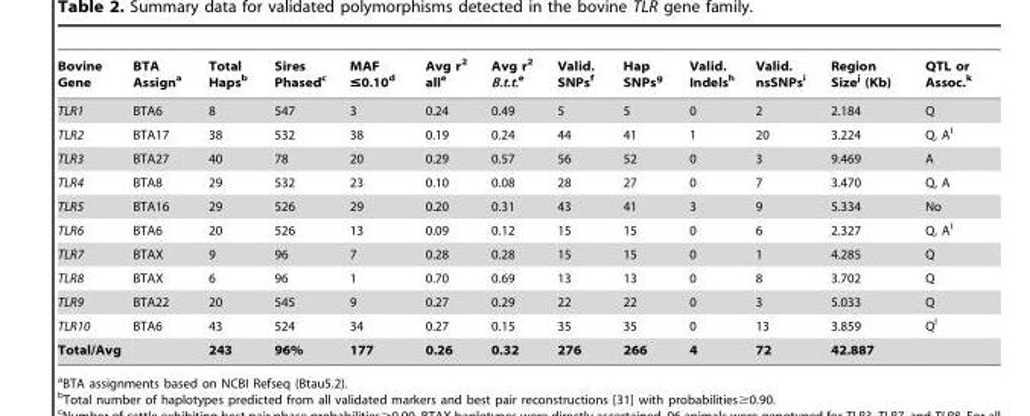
<table><thead><tr><td>Bovine Gene</td><td>BTA Assign<sup>a</sup></td><td>Total Haps<sup>b</sup></td><td>Sires Phased<sup>c</sup></td><td>MAF ≤0.10<sup>d</sup></td><td>Avg r<sup>2</sup> all<sup>e</sup></td><td>Avg r<sup>2</sup> B.t.t.e</td><td>Valid. SNPs<sup>f</sup></td><td>Hap SNPs<sup>g</sup></td><td>Valid. Indels<sup>h</sup></td><td>Valid. nsSNPs<sup>i</sup></td><td>Region Size<sup>j</sup> (Kb)</td><td>QTL or Assoc.<sup>k</sup></td></tr></thead><tbody><tr><td>TLR1</td><td>BTA6</td><td>8</td><td>547</td><td>3</td><td>0.24</td><td>0.49</td><td>5</td><td>5</td><td>0</td><td>2</td><td>2.184</td><td>Q</td></tr><tr><td>TLR2</td><td>BTA17</td><td>38</td><td>532</td><td>38</td><td>0.19</td><td>0.24</td><td>44</td><td>41</td><td>1</td><td>20</td><td>3.224</td><td>Q, A<sup>l</sup></td></tr><tr><td>TLR3</td><td>BTA27</td><td>40</td><td>78</td><td>20</td><td>0.29</td><td>0.57</td><td>56</td><td>52</td><td>0</td><td>3</td><td>9.469</td><td>A</td></tr><tr><td>TLR4</td><td>BTA8</td><td>29</td><td>532</td><td>23</td><td>0.10</td><td>0.08</td><td>28</td><td>27</td><td>0</td><td>7</td><td>3.470</td><td>Q, A</td></tr><tr><td>TLR5</td><td>BTA16</td><td>29</td><td>526</td><td>29</td><td>0.20</td><td>0.31</td><td>43</td><td>41</td><td>3</td><td>9</td><td>5.334</td><td>No</td></tr><tr><td>TLR6</td><td>BTA6</td><td>20</td><td>526</td><td>13</td><td>0.09</td><td>0.12</td><td>15</td><td>15</td><td>0</td><td>6</td><td>2.327</td><td>Q, A<sup>l</sup></td></tr><tr><td>TLR7</td><td>BTAX</td><td>9</td><td>96</td><td>7</td><td>0.28</td><td>0.28</td><td>15</td><td>15</td><td>0</td><td>1</td><td>4.285</td><td>Q</td></tr><tr><td>TLR8</td><td>BTAX</td><td>6</td><td>96</td><td>1</td><td>0.70</td><td>0.69</td><td>13</td><td>13</td><td>0</td><td>8</td><td>3.702</td><td>Q</td></tr><tr><td>TLR9</td><td>BTA22</td><td>20</td><td>545</td><td>9</td><td>0.27</td><td>0.29</td><td>22</td><td>22</td><td>0</td><td>3</td><td>5.033</td><td>Q</td></tr><tr><td>TLR10</td><td>BTA6</td><td>43</td><td>524</td><td>34</td><td>0.27</td><td>0.15</td><td>35</td><td>35</td><td>0</td><td>13</td><td>3.859</td><td>Q<sup>l</sup></td></tr><tr><td>Total/Avg</td><td></td><td>243</td><td>96%</td><td>177</td><td>0.26</td><td>0.32</td><td>276</td><td>266</td><td>4</td><td>72</td><td>42.887</td><td></td></tr></tbody></table>